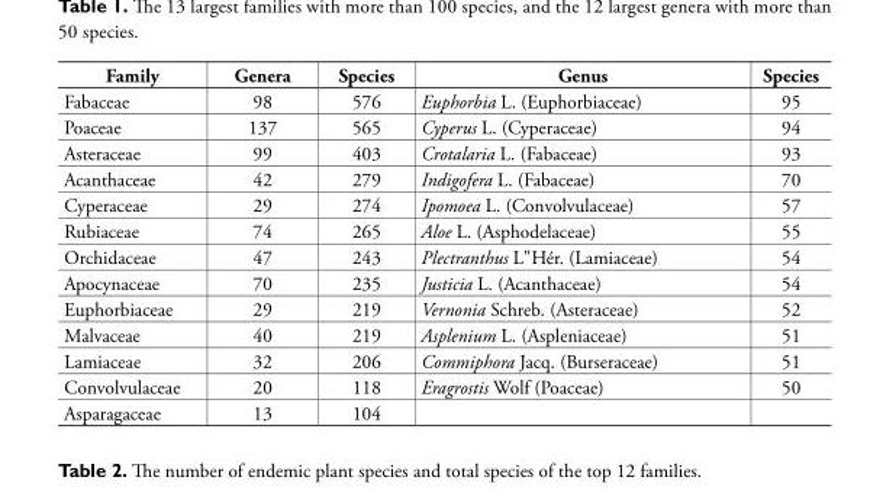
<table><thead><tr><td>Family</td><td>Genera</td><td>Species</td><td>Genus</td><td>Species</td></tr></thead><tbody><tr><td>Fabaceae</td><td>98</td><td>576</td><td>Euphorbia L. (Euphorbiaceae)</td><td>95</td></tr><tr><td>Poaceae</td><td>137</td><td>565</td><td>Cyperus L. (Cyperaceae)</td><td>94</td></tr><tr><td>Asteraceae</td><td>99</td><td>403</td><td>Crotalaria L. (Fabaceae)</td><td>93</td></tr><tr><td>Acanthaceae</td><td>42</td><td>279</td><td>Indigofera L. (Fabaceae)</td><td>70</td></tr><tr><td>Cyperaceae</td><td>29</td><td>274</td><td>Ipomoea L. (Convolvulaceae)</td><td>57</td></tr><tr><td>Rubiaceae</td><td>74</td><td>265</td><td>Aloe L. (Asphodelaceae)</td><td>55</td></tr><tr><td>Orchidaceae</td><td>47</td><td>243</td><td>Plectranthus L&quot;Hér. (Lamiaceae)</td><td>54</td></tr><tr><td>Apocynaceae</td><td>70</td><td>235</td><td>Justicia L. (Acanthaceae)</td><td>54</td></tr><tr><td>Euphorbiaceae</td><td>29</td><td>219</td><td>Vernonia Schreb. (Asteraceae)</td><td>52</td></tr><tr><td>Malvaceae</td><td>40</td><td>219</td><td>Asplenium L. (Aspleniaceae)</td><td>51</td></tr><tr><td>Lamiaceae</td><td>32</td><td>206</td><td>Commiphora Jacq. (Burseraceae)</td><td>51</td></tr><tr><td>Convolvulaceae</td><td>20</td><td>118</td><td>Eragrostis Wolf (Poaceae)</td><td>50</td></tr><tr><td>Asparagaceae</td><td>13</td><td>104</td><td></td><td></td></tr></tbody></table>